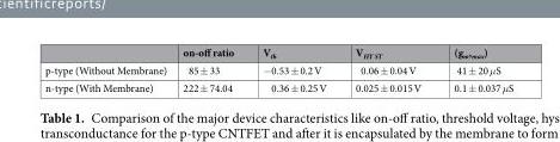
<table><thead><tr><td></td><td>on-off ratio</td><td>V<sub>th</sub></td><td>V<sub>HY ST</sub></td><td>(g<sub>m</sub>,<sub>max</sub>)</td></tr></thead><tbody><tr><td>p-type (Without Membrane)</td><td>85 ± 33</td><td>−0.53 ± 0.2 V</td><td>0.06 ± 0.04 V</td><td>41 ± 20 μS</td></tr><tr><td>n-type (With Membrane)</td><td>222 ± 74.04</td><td>0.36 ± 0.25 V</td><td>0.025 ± 0.015 V</td><td>0.1 ± 0.037 μS</td></tr></tbody></table>